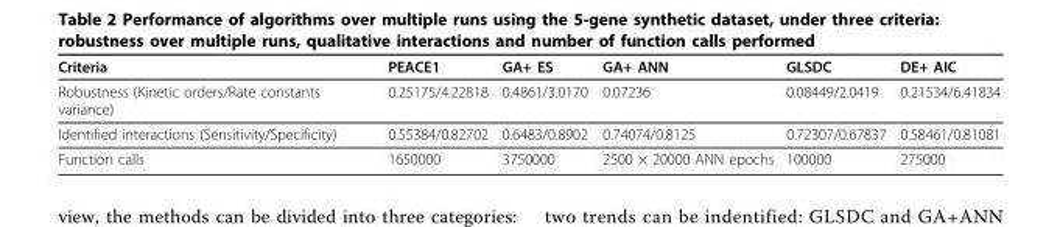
<table><thead><tr><td>Criteria</td><td>PEACE1</td><td>GA+ ES</td><td>GA+ ANN</td><td>GLSDC</td><td>DE+ AIC</td></tr></thead><tbody><tr><td>Robustness (Kinetic orders/Rate constants variance)</td><td>0.25175/4.22818</td><td>0.4861/3.0170</td><td>0.07236</td><td>0.08449/2.0419</td><td>0.21534/6.41834</td></tr><tr><td>Identified interactions (Sensitivity/Specificity)</td><td>0.55384/0.82702</td><td>0.6483/0.8902</td><td>0.74074/0.8125</td><td>0.72307/0.67837</td><td>0.58461/0.81081</td></tr><tr><td>Function calls</td><td>1650000</td><td>3750000</td><td>2500 × 20000 ANN epochs</td><td>100000</td><td>275000</td></tr></tbody></table>